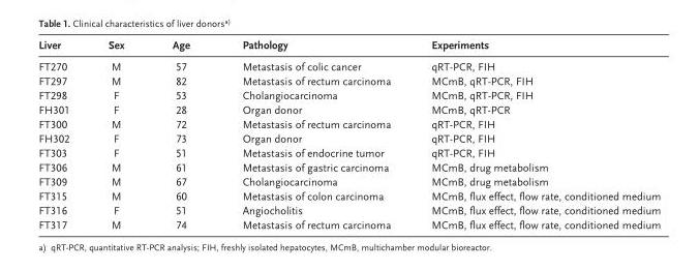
<table><thead><tr><td>Liver</td><td>Sex</td><td>Age</td><td>Pathology</td><td>Experiments</td></tr></thead><tbody><tr><td>FT270</td><td>M</td><td>57</td><td>Metastasis of colic cancer</td><td>qRT-PCR, FIH</td></tr><tr><td>FT297</td><td>M</td><td>82</td><td>Metastasis of rectum carcinoma</td><td>MCmB, qRT-PCR, FIH</td></tr><tr><td>FT298</td><td>F</td><td>53</td><td>Cholangiocarcinoma</td><td>MCmB, qRT-PCR, FIH</td></tr><tr><td>FH301</td><td>F</td><td>28</td><td>Organ donor</td><td>MCmB, qRT-PCR</td></tr><tr><td>FT300</td><td>M</td><td>72</td><td>Metastasis of rectum carcinoma</td><td>qRT-PCR, FIH</td></tr><tr><td>FH302</td><td>F</td><td>73</td><td>Organ donor</td><td>qRT-PCR, FIH</td></tr><tr><td>FT303</td><td>F</td><td>51</td><td>Metastasis of endocrine tumor</td><td>qRT-PCR, FIH</td></tr><tr><td>FT306</td><td>M</td><td>61</td><td>Metastasis of gastric carcinoma</td><td>MCmB, drug metabolism</td></tr><tr><td>FT309</td><td>M</td><td>67</td><td>Cholangiocarcinoma</td><td>MCmB, drug metabolism</td></tr><tr><td>FT315</td><td>M</td><td>60</td><td>Metastasis of colon carcinoma</td><td>MCmB, flux effect, flow rate, conditioned medium</td></tr><tr><td>FT316</td><td>F</td><td>51</td><td>Angiocholitis</td><td>MCmB, flux effect, flow rate, conditioned medium</td></tr><tr><td>FT317</td><td>M</td><td>74</td><td>Metastasis of rectum carcinoma</td><td>MCmB, flux effect, flow rate, conditioned medium</td></tr></tbody></table>